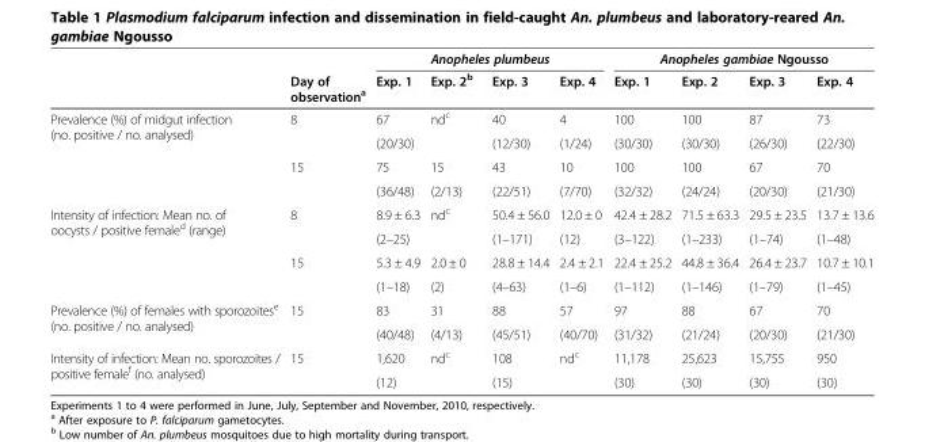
<table><thead><tr><td rowspan="2"></td><td rowspan="2">Day of observation<sup>a</sup></td><td colspan="4">Anopheles plumbeus</td><td colspan="4">Anopheles gambiae Ngousso</td></tr><tr><td>Exp. 1</td><td>Exp. 2<sup>b</sup></td><td>Exp. 3</td><td>Exp. 4</td><td>Exp. 1</td><td>Exp. 2</td><td>Exp. 3</td><td>Exp. 4</td></tr></thead><tbody><tr><td rowspan="4">Prevalence (%) of midgut infection (no. positive / no. analysed)</td><td>8</td><td>67</td><td>nd<sup>c</sup></td><td>40</td><td>4</td><td>100</td><td>100</td><td>87</td><td>73</td></tr><tr><td></td><td>(20/30)</td><td></td><td>(12/30)</td><td>(1/24)</td><td>(30/30)</td><td>(30/30)</td><td>(26/30)</td><td>(22/30)</td></tr><tr><td>15</td><td>75</td><td>15</td><td>43</td><td>10</td><td>100</td><td>100</td><td>67</td><td>70</td></tr><tr><td></td><td>(36/48)</td><td>(2/13)</td><td>(22/51)</td><td>(7/70)</td><td>(32/32)</td><td>(24/24)</td><td>(20/30)</td><td>(21/30)</td></tr><tr><td rowspan="4">Intensity of infection: Mean no. of oocysts / positive female<sup>d</sup> (range)</td><td>8</td><td>8.9 ± 6.3</td><td>nd<sup>c</sup></td><td>50.4 ± 56.0</td><td>12.0 ± 0</td><td>42.4 ± 28.2</td><td>71.5 ± 63.3</td><td>29.5 ± 23.5</td><td>13.7 ± 13.6</td></tr><tr><td></td><td>(2–25)</td><td></td><td>(1–171)</td><td>(12)</td><td>(3–122)</td><td>(1–233)</td><td>(1–74)</td><td>(1–48)</td></tr><tr><td>15</td><td>5.3 ± 4.9</td><td>2.0 ± 0</td><td>28.8 ± 14.4</td><td>2.4 ± 2.1</td><td>22.4 ± 25.2</td><td>44.8 ± 36.4</td><td>26.4 ± 23.7</td><td>10.7 ± 10.1</td></tr><tr><td></td><td>(1–18)</td><td>(2)</td><td>(4–63)</td><td>(1–6)</td><td>(1–112)</td><td>(1–146)</td><td>(1–79)</td><td>(1–45)</td></tr><tr><td rowspan="2">Prevalence (%) of females with sporozoites<sup>e</sup> (no. positive / no. analysed)</td><td>15</td><td>83</td><td>31</td><td>88</td><td>57</td><td>97</td><td>88</td><td>67</td><td>70</td></tr><tr><td></td><td>(40/48)</td><td>(4/13)</td><td>(45/51)</td><td>(40/70)</td><td>(31/32)</td><td>(21/24)</td><td>(20/30)</td><td>(21/30)</td></tr><tr><td rowspan="2">Intensity of infection: Mean no. sporozoites / positive female<sup>f</sup> (no. analysed)</td><td>15</td><td>1,620</td><td>nd<sup>c</sup></td><td>108</td><td>nd<sup>c</sup></td><td>11,178</td><td>25,623</td><td>15,755</td><td>950</td></tr><tr><td></td><td>(12)</td><td></td><td>(15)</td><td></td><td>(30)</td><td>(30)</td><td>(30)</td><td>(30)</td></tr></tbody></table>